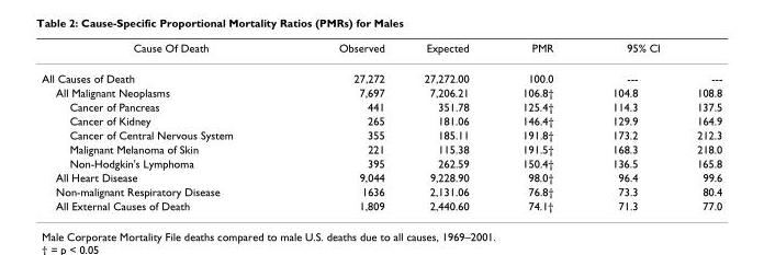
<table><thead><tr><td rowspan="2">Cause Of Death All Causes of Death</td><td rowspan="2">Observed 27,272</td><td rowspan="2">Expected 27,272.00</td><td rowspan="2">PMR 100.0</td><td colspan="2">95% CI</td></tr><tr><td>---</td><td>---</td></tr></thead><tbody><tr><td>All Malignant Neoplasms</td><td>7,697</td><td>7,206.21</td><td>106.8†</td><td>104.8</td><td>108.8</td></tr><tr><td>Cancer of Pancreas</td><td>441</td><td>351.78</td><td>125.4†</td><td>114.3</td><td>137.5</td></tr><tr><td>Cancer of Kidney</td><td>265</td><td>181.06</td><td>146.4†</td><td>129.9</td><td>164.9</td></tr><tr><td>Cancer of Central Nervous System</td><td>355</td><td>185.11</td><td>191.8†</td><td>173.2</td><td>212.3</td></tr><tr><td>Malignant Melanoma of Skin</td><td>221</td><td>115.38</td><td>191.5†</td><td>168.3</td><td>218.0</td></tr><tr><td>Non-Hodgkin&#x27;s Lymphoma</td><td>395</td><td>262.59</td><td>150.4†</td><td>136.5</td><td>165.8</td></tr><tr><td>All Heart Disease</td><td>9,044</td><td>9,228.90</td><td>98.0†</td><td>96.4</td><td>99.6</td></tr><tr><td>Non-malignant Respiratory Disease</td><td>1636</td><td>2,131.06</td><td>76.8†</td><td>73.3</td><td>80.4</td></tr><tr><td>All External Causes of Death</td><td>1,809</td><td>2,440.60</td><td>74.1†</td><td>71.3</td><td>77.0</td></tr></tbody></table>